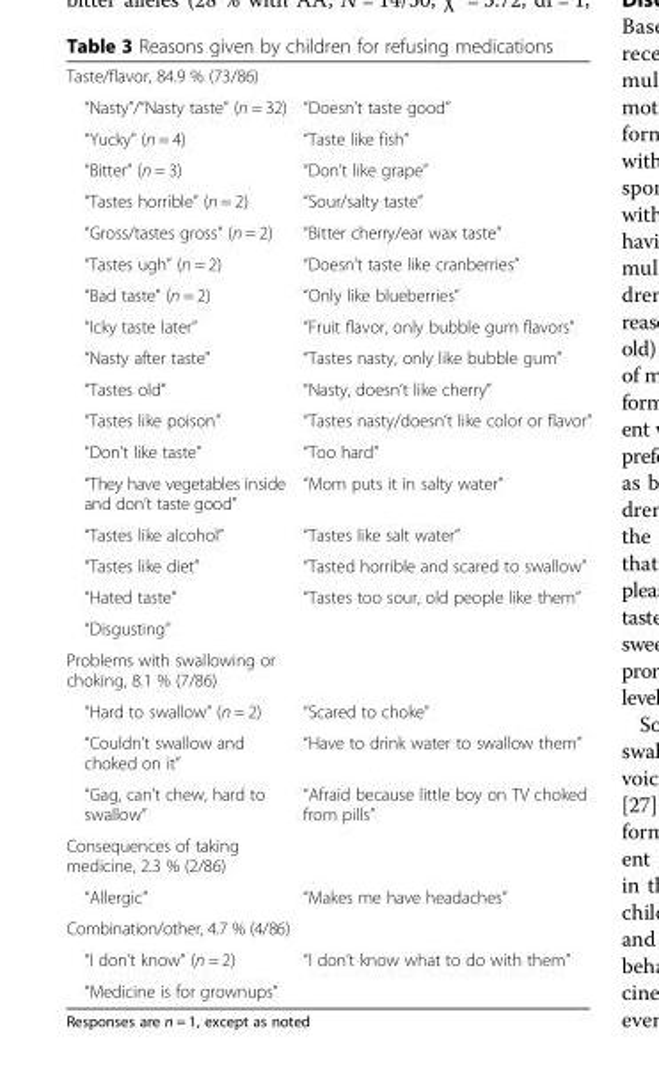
<table><tbody><tr><td colspan="2">Taste/flavor, 84.9 % (73/86)</td></tr><tr><td>“Nasty”/“Nasty taste” (n = 32)</td><td>“Doesn’t taste good”</td></tr><tr><td>“Yucky” (n = 4)</td><td>“Taste like fish”</td></tr><tr><td>“Bitter” (n = 3)</td><td>“Don’t like grape”</td></tr><tr><td>“Tastes horrible” (n = 2)</td><td>“Sour/salty taste”</td></tr><tr><td>“Gross/tastes gross” (n = 2)</td><td>“Bitter cherry/ear wax taste”</td></tr><tr><td>“Tastes ugh” (n = 2)</td><td>“Doesn’t taste like cranberries”</td></tr><tr><td>“Bad taste” (n = 2)</td><td>“Only like blueberries”</td></tr><tr><td>“Icky taste later”</td><td>“Fruit flavor, only bubble gum flavors”</td></tr><tr><td>“Nasty after taste”</td><td>“Tastes nasty, only like bubble gum”</td></tr><tr><td>“Tastes old”</td><td>“Nasty, doesn’t like cherry”</td></tr><tr><td>“Tastes like poison”</td><td>“Tastes nasty/doesn’t like color or flavor”</td></tr><tr><td>“Don’t like taste”</td><td>“Too hard”</td></tr><tr><td>“They have vegetables inside and don’t taste good”</td><td>“Mom puts it in salty water”</td></tr><tr><td>“Tastes like alcohol”</td><td>“Tastes like salt water”</td></tr><tr><td>“Tastes like diet”</td><td>“Tasted horrible and scared to swallow”</td></tr><tr><td>“Hated taste”</td><td>“Tastes too sour, old people like them”</td></tr><tr><td colspan="2">“Disgusting”</td></tr><tr><td colspan="2">Problems with swallowing or choking, 8.1 % (7/86)</td></tr><tr><td>“Hard to swallow” (n = 2)</td><td>“Scared to choke”</td></tr><tr><td>“Couldn’t swallow and choked on it”</td><td>“Have to drink water to swallow them”</td></tr><tr><td>“Gag, can’t chew, hard to swallow”</td><td>“Afraid because little boy on TV choked from pills”</td></tr><tr><td colspan="2">Consequences of taking medicine, 2.3 % (2/86)</td></tr><tr><td>“Allergic”</td><td>“Makes me have headaches”</td></tr><tr><td colspan="2">Combination/other, 4.7 % (4/86)</td></tr><tr><td>“I don’t know” (n = 2)</td><td>“I don’t know what to do with them”</td></tr><tr><td>“Medicine is for grownups”</td><td></td></tr></tbody></table>